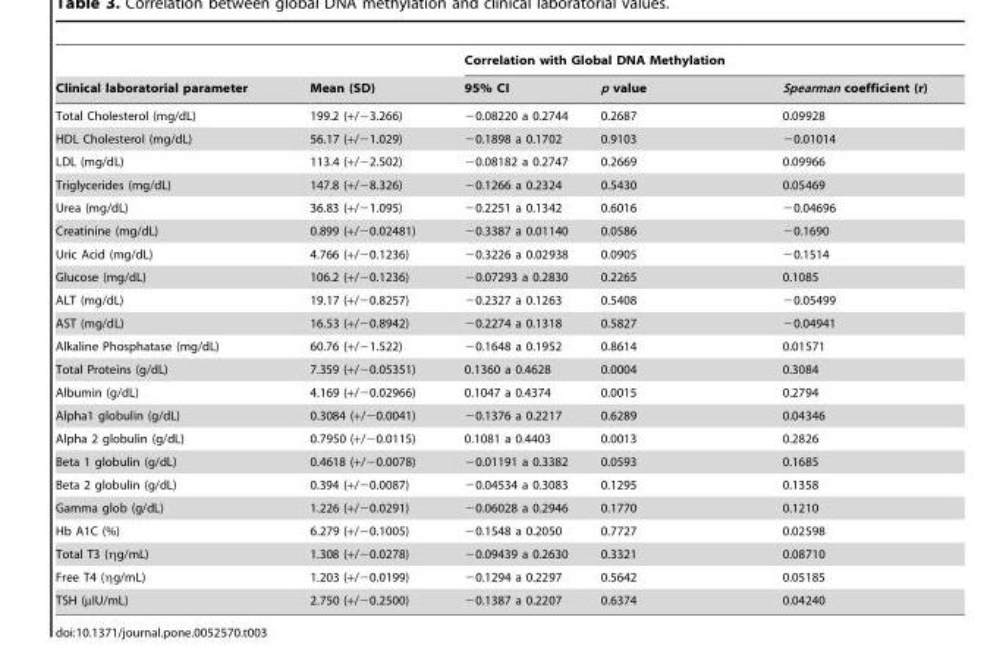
<table><thead><tr><td rowspan="2">Clinical laboratorial parameter</td><td rowspan="2">Mean (SD)</td><td colspan="3">Correlation with Global DNA Methylation</td></tr><tr><td>95% CI</td><td>p value</td><td>Spearman coefficient (r)</td></tr></thead><tbody><tr><td>Total Cholesterol (mg/dL)</td><td>199.2 (+/−3.266)</td><td>−0.08220 a 0.2744</td><td>0.2687</td><td>0.09928</td></tr><tr><td>HDL Cholesterol (mg/dL)</td><td>56.17 (+/−1.029)</td><td>−0.1898 a 0.1702</td><td>0.9103</td><td>−0.01014</td></tr><tr><td>LDL (mg/dL)</td><td>113.4 (+/−2.502)</td><td>−0.08182 a 0.2747</td><td>0.2669</td><td>0.09966</td></tr><tr><td>Triglycerides (mg/dL)</td><td>147.8 (+/−8.326)</td><td>−0.1266 a 0.2324</td><td>0.5430</td><td>0.05469</td></tr><tr><td>Urea (mg/dL)</td><td>36.83 (+/−1.095)</td><td>−0.2251 a 0.1342</td><td>0.6016</td><td>−0.04696</td></tr><tr><td>Creatinine (mg/dL)</td><td>0.899 (+/−0.02481)</td><td>−0.3387 a 0.01140</td><td>0.0586</td><td>−0.1690</td></tr><tr><td>Uric Acid (mg/dL)</td><td>4.766 (+/−0.1236)</td><td>−0.3226 a 0.02938</td><td>0.0905</td><td>−0.1514</td></tr><tr><td>Glucose (mg/dL)</td><td>106.2 (+/−0.1236)</td><td>−0.07293 a 0.2830</td><td>0.2265</td><td>0.1085</td></tr><tr><td>ALT (mg/dL)</td><td>19.17 (+/−0.8257)</td><td>−0.2327 a 0.1263</td><td>0.5408</td><td>−0.05499</td></tr><tr><td>AST (mg/dL)</td><td>16.53 (+/−0.8942)</td><td>−0.2274 a 0.1318</td><td>0.5827</td><td>−0.04941</td></tr><tr><td>Alkaline Phosphatase (mg/dL)</td><td>60.76 (+/−1.522)</td><td>−0.1648 a 0.1952</td><td>0.8614</td><td>0.01571</td></tr><tr><td>Total Proteins (g/dL)</td><td>7.359 (+/−0.05351)</td><td>0.1360 a 0.4628</td><td>0.0004</td><td>0.3084</td></tr><tr><td>Albumin (g/dL)</td><td>4.169 (+/−0.02966)</td><td>0.1047 a 0.4374</td><td>0.0015</td><td>0.2794</td></tr><tr><td>Alpha1 globulin (g/dL)</td><td>0.3084 (+/−0.0041)</td><td>−0.1376 a 0.2217</td><td>0.6289</td><td>0.04346</td></tr><tr><td>Alpha 2 globulin (g/dL)</td><td>0.7950 (+/−0.0115)</td><td>0.1081 a 0.4403</td><td>0.0013</td><td>0.2826</td></tr><tr><td>Beta 1 globulin (g/dL)</td><td>0.4618 (+/−0.0078)</td><td>−0.01191 a 0.3382</td><td>0.0593</td><td>0.1685</td></tr><tr><td>Beta 2 globulin (g/dL)</td><td>0.394 (+/−0.0087)</td><td>−0.04534 a 0.3083</td><td>0.1295</td><td>0.1358</td></tr><tr><td>Gamma glob (g/dL)</td><td>1.226 (+/−0.0291)</td><td>−0.06028 a 0.2946</td><td>0.1770</td><td>0.1210</td></tr><tr><td>Hb A1C (%)</td><td>6.279 (+/−0.1005)</td><td>−0.1548 a 0.2050</td><td>0.7727</td><td>0.02598</td></tr><tr><td>Total T3 (ηg/mL)</td><td>1.308 (+/−0.0278)</td><td>−0.09439 a 0.2630</td><td>0.3321</td><td>0.08710</td></tr><tr><td>Free T4 (ηg/mL)</td><td>1.203 (+/−0.0199)</td><td>−0.1294 a 0.2297</td><td>0.5642</td><td>0.05185</td></tr><tr><td>TSH (µIU/mL)</td><td>2.750 (+/−0.2500)</td><td>−0.1387 a 0.2207</td><td>0.6374</td><td>0.04240</td></tr></tbody></table>